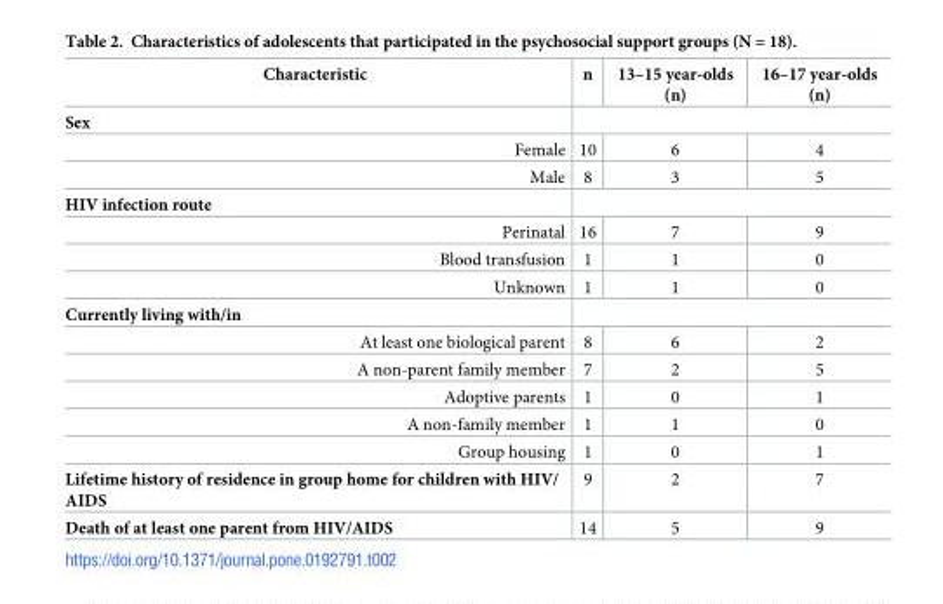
<table><thead><tr><td>Characteristic</td><td>n</td><td>13–15 year-olds (n)</td><td>16–17 year-olds (n)</td></tr></thead><tbody><tr><td colspan="4">Sex</td></tr><tr><td>Female</td><td>10</td><td>6</td><td>4</td></tr><tr><td>Male</td><td>8</td><td>3</td><td>5</td></tr><tr><td colspan="4">HIV infection route</td></tr><tr><td>Perinatal</td><td>16</td><td>7</td><td>9</td></tr><tr><td>Blood transfusion</td><td>1</td><td>1</td><td>0</td></tr><tr><td>Unknown</td><td>1</td><td>1</td><td>0</td></tr><tr><td colspan="4">Currently living with/in</td></tr><tr><td>At least one biological parent</td><td>8</td><td>6</td><td>2</td></tr><tr><td>A non-parent family member</td><td>7</td><td>2</td><td>5</td></tr><tr><td>Adoptive parents</td><td>1</td><td>0</td><td>1</td></tr><tr><td>A non-family member</td><td>1</td><td>1</td><td>0</td></tr><tr><td>Group housing</td><td>1</td><td>0</td><td>1</td></tr><tr><td>Lifetime history of residence in group home for children with HIV/ AIDS</td><td>9</td><td>2</td><td>7</td></tr><tr><td>Death of at least one parent from HIV/AIDS</td><td>14</td><td>5</td><td>9</td></tr></tbody></table>